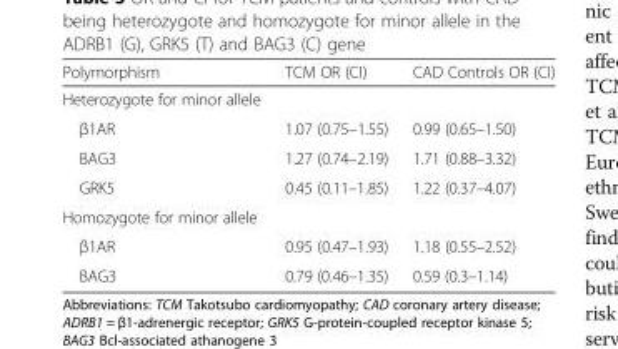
<table><thead><tr><td>Polymorphism</td><td>TCM OR (CI)</td><td>CAD Controls OR (CI)</td></tr></thead><tbody><tr><td colspan="3">Heterozygote for minor allele</td></tr><tr><td>β1AR</td><td>1.07 (0.75–1.55)</td><td>0.99 (0.65–1.50)</td></tr><tr><td>BAG3</td><td>1.27 (0.74–2.19)</td><td>1.71 (0.88–3.32)</td></tr><tr><td>GRK5</td><td>0.45 (0.11–1.85)</td><td>1.22 (0.37–4.07)</td></tr><tr><td colspan="3">Homozygote for minor allele</td></tr><tr><td>β1AR</td><td>0.95 (0.47–1.93)</td><td>1.18 (0.55–2.52)</td></tr><tr><td>BAG3</td><td>0.79 (0.46–1.35)</td><td>0.59 (0.3–1.14)</td></tr></tbody></table>